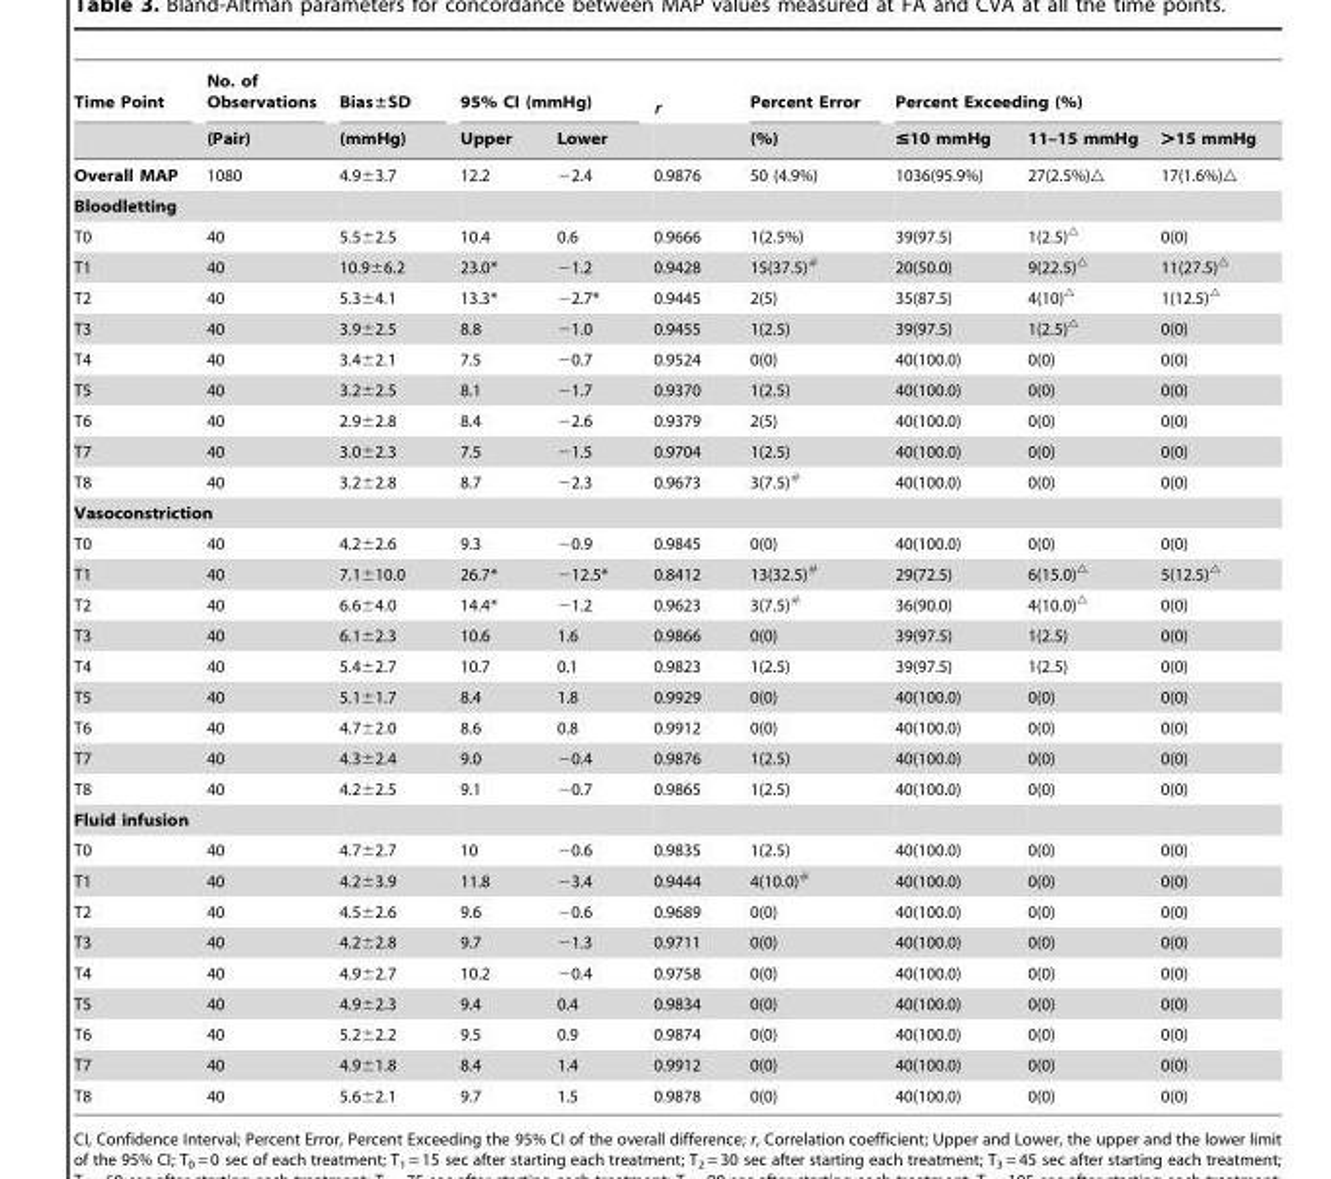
<table><thead><tr><td rowspan="2">Time Point</td><td rowspan="2">No. of Observations (Pair)</td><td rowspan="2">Bias±SD (mmHg)</td><td colspan="2">95% CI (mmHg)</td><td rowspan="2">r</td><td rowspan="2">Percent Error (%)</td><td colspan="3">Percent Exceeding (%)</td></tr><tr><td>Upper</td><td>Lower</td><td>≤10 mmHg</td><td>11–15 mmHg</td><td>&gt;15 mmHg</td></tr></thead><tbody><tr><td>Overall MAP</td><td>1080</td><td>4.9±3.7</td><td>12.2</td><td>−2.4</td><td>0.9876</td><td>50 (4.9%)</td><td>1036(95.9%)</td><td>27(2.5%)△</td><td>17(1.6%)△</td></tr><tr><td colspan="10">Bloodletting</td></tr><tr><td>T0</td><td>40</td><td>5.5±2.5</td><td>10.4</td><td>0.6</td><td>0.9666</td><td>1(2.5%)</td><td>39(97.5)</td><td>1(2.5)<sup>△</sup></td><td>0(0)</td></tr><tr><td>T1</td><td>40</td><td>10.9±6.2</td><td>23.0*</td><td>−1.2</td><td>0.9428</td><td>15(37.5)<sup>#</sup></td><td>20(50.0)</td><td>9(22.5)<sup>△</sup></td><td>11(27.5)<sup>△</sup></td></tr><tr><td>T2</td><td>40</td><td>5.3±4.1</td><td>13.3*</td><td>−2.7*</td><td>0.9445</td><td>2(5)</td><td>35(87.5)</td><td>4(10)<sup>△</sup></td><td>1(12.5)<sup>△</sup></td></tr><tr><td>T3</td><td>40</td><td>3.9±2.5</td><td>8.8</td><td>−1.0</td><td>0.9455</td><td>1(2.5)</td><td>39(97.5)</td><td>1(2.5)<sup>△</sup></td><td>0(0)</td></tr><tr><td>T4</td><td>40</td><td>3.4±2.1</td><td>7.5</td><td>−0.7</td><td>0.9524</td><td>0(0)</td><td>40(100.0)</td><td>0(0)</td><td>0(0)</td></tr><tr><td>T5</td><td>40</td><td>3.2±2.5</td><td>8.1</td><td>−1.7</td><td>0.9370</td><td>1(2.5)</td><td>40(100.0)</td><td>0(0)</td><td>0(0)</td></tr><tr><td>T6</td><td>40</td><td>2.9±2.8</td><td>8.4</td><td>−2.6</td><td>0.9379</td><td>2(5)</td><td>40(100.0)</td><td>0(0)</td><td>0(0)</td></tr><tr><td>T7</td><td>40</td><td>3.0±2.3</td><td>7.5</td><td>−1.5</td><td>0.9704</td><td>1(2.5)</td><td>40(100.0)</td><td>0(0)</td><td>0(0)</td></tr><tr><td>T8</td><td>40</td><td>3.2±2.8</td><td>8.7</td><td>−2.3</td><td>0.9673</td><td>3(7.5)<sup>#</sup></td><td>40(100.0)</td><td>0(0)</td><td>0(0)</td></tr><tr><td colspan="10">Vasoconstriction</td></tr><tr><td>T0</td><td>40</td><td>4.2±2.6</td><td>9.3</td><td>−0.9</td><td>0.9845</td><td>0(0)</td><td>40(100.0)</td><td>0(0)</td><td>0(0)</td></tr><tr><td>T1</td><td>40</td><td>7.1±10.0</td><td>26.7*</td><td>−12.5*</td><td>0.8412</td><td>13(32.5)<sup>#</sup></td><td>29(72.5)</td><td>6(15.0)<sup>△</sup></td><td>5(12.5)<sup>△</sup></td></tr><tr><td>T2</td><td>40</td><td>6.6±4.0</td><td>14.4*</td><td>−1.2</td><td>0.9623</td><td>3(7.5)<sup>#</sup></td><td>36(90.0)</td><td>4(10.0)<sup>△</sup></td><td>0(0)</td></tr><tr><td>T3</td><td>40</td><td>6.1±2.3</td><td>10.6</td><td>1.6</td><td>0.9866</td><td>0(0)</td><td>39(97.5)</td><td>1(2.5)</td><td>0(0)</td></tr><tr><td>T4</td><td>40</td><td>5.4±2.7</td><td>10.7</td><td>0.1</td><td>0.9823</td><td>1(2.5)</td><td>39(97.5)</td><td>1(2.5)</td><td>0(0)</td></tr><tr><td>T5</td><td>40</td><td>5.1±1.7</td><td>8.4</td><td>1.8</td><td>0.9929</td><td>0(0)</td><td>40(100.0)</td><td>0(0)</td><td>0(0)</td></tr><tr><td>T6</td><td>40</td><td>4.7±2.0</td><td>8.6</td><td>0.8</td><td>0.9912</td><td>0(0)</td><td>40(100.0)</td><td>0(0)</td><td>0(0)</td></tr><tr><td>T7</td><td>40</td><td>4.3±2.4</td><td>9.0</td><td>−0.4</td><td>0.9876</td><td>1(2.5)</td><td>40(100.0)</td><td>0(0)</td><td>0(0)</td></tr><tr><td>T8</td><td>40</td><td>4.2±2.5</td><td>9.1</td><td>−0.7</td><td>0.9865</td><td>1(2.5)</td><td>40(100.0)</td><td>0(0)</td><td>0(0)</td></tr><tr><td colspan="10">Fluid infusion</td></tr><tr><td>T0</td><td>40</td><td>4.7±2.7</td><td>10</td><td>−0.6</td><td>0.9835</td><td>1(2.5)</td><td>40(100.0)</td><td>0(0)</td><td>0(0)</td></tr><tr><td>T1</td><td>40</td><td>4.2±3.9</td><td>11.8</td><td>−3.4</td><td>0.9444</td><td>4(10.0)<sup>#</sup></td><td>40(100.0)</td><td>0(0)</td><td>0(0)</td></tr><tr><td>T2</td><td>40</td><td>4.5±2.6</td><td>9.6</td><td>−0.6</td><td>0.9689</td><td>0(0)</td><td>40(100.0)</td><td>0(0)</td><td>0(0)</td></tr><tr><td>T3</td><td>40</td><td>4.2±2.8</td><td>9.7</td><td>−1.3</td><td>0.9711</td><td>0(0)</td><td>40(100.0)</td><td>0(0)</td><td>0(0)</td></tr><tr><td>T4</td><td>40</td><td>4.9±2.7</td><td>10.2</td><td>−0.4</td><td>0.9758</td><td>0(0)</td><td>40(100.0)</td><td>0(0)</td><td>0(0)</td></tr><tr><td>T5</td><td>40</td><td>4.9±2.3</td><td>9.4</td><td>0.4</td><td>0.9834</td><td>0(0)</td><td>40(100.0)</td><td>0(0)</td><td>0(0)</td></tr><tr><td>T6</td><td>40</td><td>5.2±2.2</td><td>9.5</td><td>0.9</td><td>0.9874</td><td>0(0)</td><td>40(100.0)</td><td>0(0)</td><td>0(0)</td></tr><tr><td>T7</td><td>40</td><td>4.9±1.8</td><td>8.4</td><td>1.4</td><td>0.9912</td><td>0(0)</td><td>40(100.0)</td><td>0(0)</td><td>0(0)</td></tr><tr><td>T8</td><td>40</td><td>5.6±2.1</td><td>9.7</td><td>1.5</td><td>0.9878</td><td>0(0)</td><td>40(100.0)</td><td>0(0)</td><td>0(0)</td></tr></tbody></table>